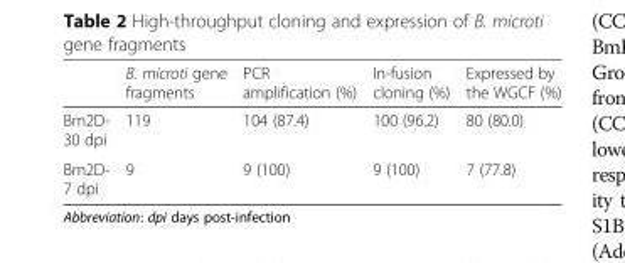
<table><thead><tr><td></td><td>B. microti gene fragments</td><td>PCR amplification (%)</td><td>In-fusion cloning (%)</td><td>Expressed by the WGCF (%)</td></tr></thead><tbody><tr><td>Bm2D- 30 dpi</td><td>119</td><td>104 (87.4)</td><td>100 (96.2)</td><td>80 (80.0)</td></tr><tr><td>Bm2D- 7 dpi</td><td>9</td><td>9 (100)</td><td>9 (100)</td><td>7 (77.8)</td></tr></tbody></table>